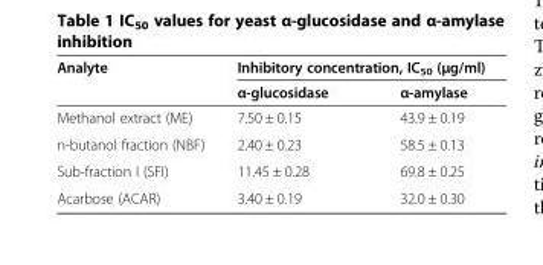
<table><thead><tr><td rowspan="2">Analyte</td><td colspan="2">Inhibitory concentration, IC<sub>50</sub> (μg/ml)</td></tr><tr><td>α-glucosidase</td><td>α-amylase</td></tr></thead><tbody><tr><td>Methanol extract (ME)</td><td>7.50 ± 0.15</td><td>43.9 ± 0.19</td></tr><tr><td>n-butanol fraction (NBF)</td><td>2.40 ± 0.23</td><td>58.5 ± 0.13</td></tr><tr><td>Sub-fraction I (SFI)</td><td>11.45 ± 0.28</td><td>69.8 ± 0.25</td></tr><tr><td>Acarbose (ACAR)</td><td>3.40 ± 0.19</td><td>32.0 ± 0.30</td></tr></tbody></table>